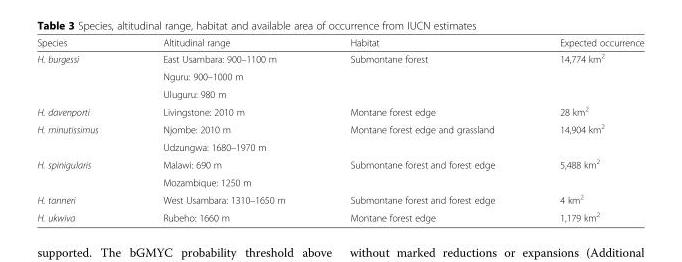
<table><thead><tr><td>Species</td><td>Altitudinal range</td><td>Habitat</td><td>Expected occurrence</td></tr></thead><tbody><tr><td rowspan="3">H. burgessi</td><td>East Usambara: 900–1100 m</td><td>Submontane forest</td><td>14,774 km<sup>2</sup></td></tr><tr><td>Nguru: 900–1000 m</td><td></td><td></td></tr><tr><td>Uluguru: 980 m</td><td></td><td></td></tr><tr><td>H. davenporti</td><td>Livingstone: 2010 m</td><td>Montane forest edge</td><td>28 km<sup>2</sup></td></tr><tr><td rowspan="2">H. minutissimus</td><td>Njombe: 2010 m</td><td>Montane forest edge and grassland</td><td>14,904 km<sup>2</sup></td></tr><tr><td>Udzungwa: 1680–1970 m</td><td></td><td></td></tr><tr><td rowspan="2">H. spinigularis</td><td>Malawi: 690 m</td><td>Submontane forest and forest edge</td><td>5,488 km<sup>2</sup></td></tr><tr><td>Mozambique: 1250 m</td><td></td><td></td></tr><tr><td>H. tanneri</td><td>West Usambara: 1310–1650 m</td><td>Submontane forest and forest edge</td><td>4 km<sup>2</sup></td></tr><tr><td>H. ukwiva</td><td>Rubeho: 1660 m</td><td>Montane forest edge</td><td>1,179 km<sup>2</sup></td></tr></tbody></table>